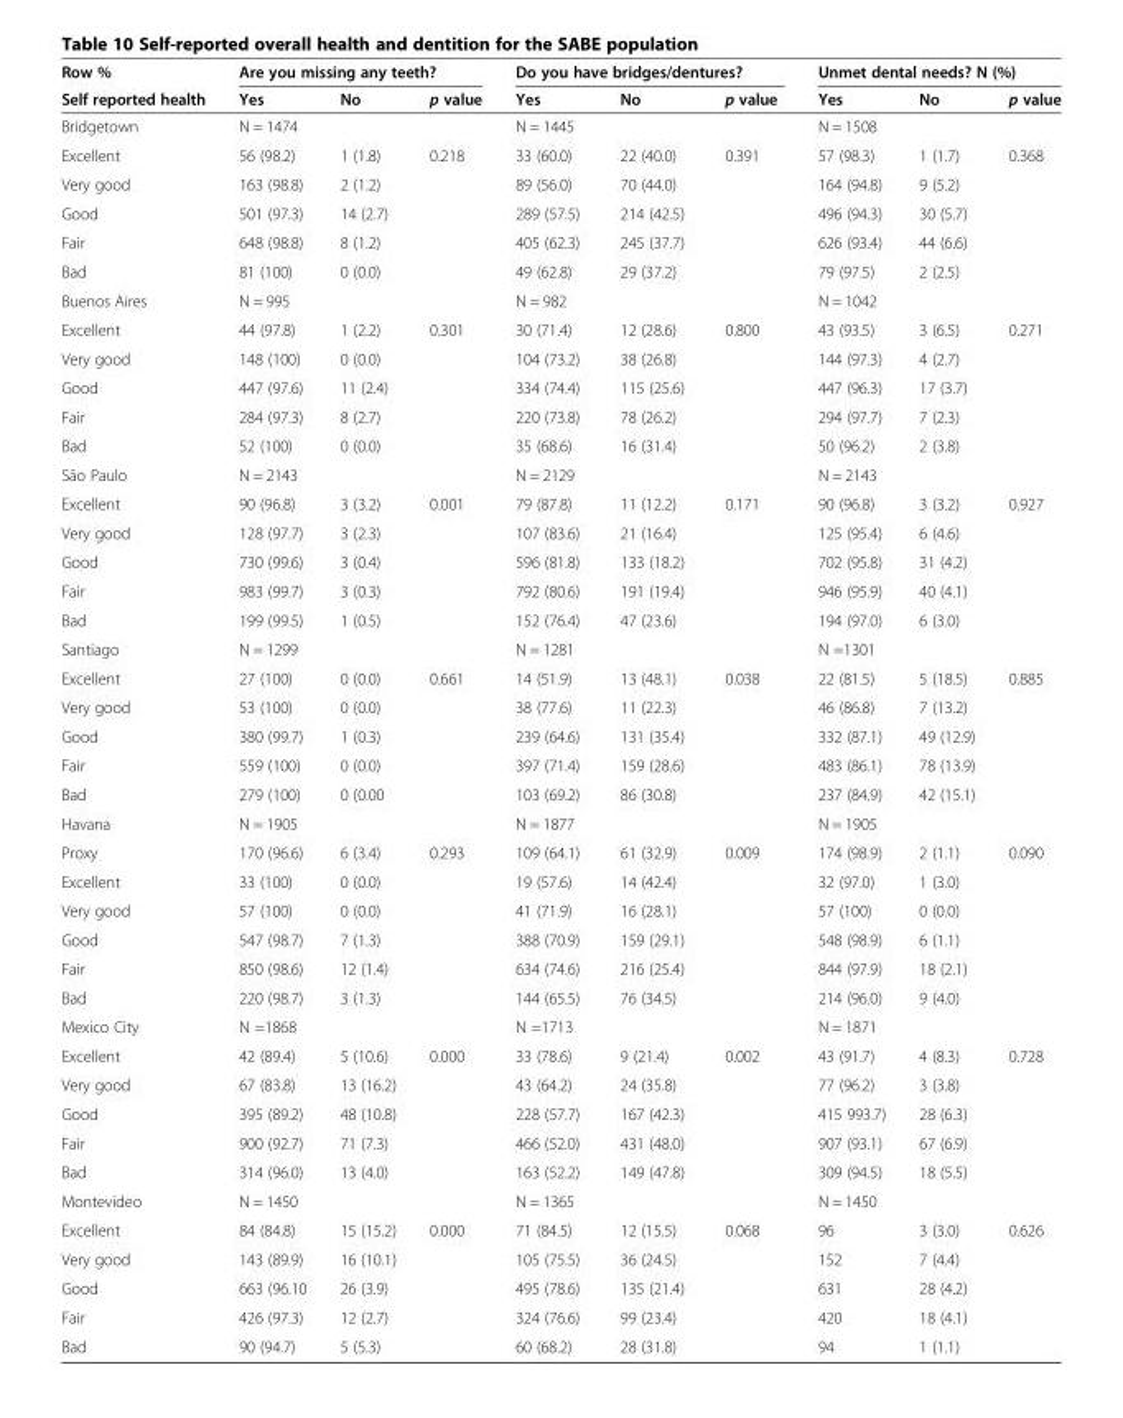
<table><thead><tr><td rowspan="2">Row % Self reported health</td><td colspan="3">Are you missing any teeth?</td><td colspan="3">Do you have bridges/dentures?</td><td colspan="3">Unmet dental needs? N (%)</td></tr><tr><td>Yes</td><td>No</td><td>p value</td><td>Yes</td><td>No</td><td>p value</td><td>Yes</td><td>No</td><td>p value</td></tr></thead><tbody><tr><td>Bridgetown</td><td colspan="2">N = 1474</td><td></td><td colspan="2">N = 1445</td><td></td><td colspan="3">N = 1508</td></tr><tr><td>Excellent</td><td>56 (98.2)</td><td>1 (1.8)</td><td>0.218</td><td>33 (60.0)</td><td>22 (40.0)</td><td>0.391</td><td>57 (98.3)</td><td>1 (1.7)</td><td>0.368</td></tr><tr><td>Very good</td><td>163 (98.8)</td><td>2 (1.2)</td><td></td><td>89 (56.0)</td><td>70 (44.0)</td><td></td><td>164 (94.8)</td><td>9 (5.2)</td><td></td></tr><tr><td>Good</td><td>501 (97.3)</td><td>14 (2.7)</td><td></td><td>289 (57.5)</td><td>214 (42.5)</td><td></td><td>496 (94.3)</td><td>30 (5.7)</td><td></td></tr><tr><td>Fair</td><td>648 (98.8)</td><td>8 (1.2)</td><td></td><td>405 (62.3)</td><td>245 (37.7)</td><td></td><td>626 (93.4)</td><td>44 (6.6)</td><td></td></tr><tr><td>Bad</td><td>81 (100)</td><td>0 (0.0)</td><td></td><td>49 (62.8)</td><td>29 (37.2)</td><td></td><td>79 (97.5)</td><td>2 (2.5)</td><td></td></tr><tr><td>Buenos Aires</td><td colspan="2">N = 995</td><td></td><td colspan="2">N = 982</td><td></td><td colspan="3">N = 1042</td></tr><tr><td>Excellent</td><td>44 (97.8)</td><td>1 (2.2)</td><td>0.301</td><td>30 (71.4)</td><td>12 (28.6)</td><td>0.800</td><td>43 (93.5)</td><td>3 (6.5)</td><td>0.271</td></tr><tr><td>Very good</td><td>148 (100)</td><td>0 (0.0)</td><td></td><td>104 (73.2)</td><td>38 (26.8)</td><td></td><td>144 (97.3)</td><td>4 (2.7)</td><td></td></tr><tr><td>Good</td><td>447 (97.6)</td><td>11 (2.4)</td><td></td><td>334 (74.4)</td><td>115 (25.6)</td><td></td><td>447 (96.3)</td><td>17 (3.7)</td><td></td></tr><tr><td>Fair</td><td>284 (97.3)</td><td>8 (2.7)</td><td></td><td>220 (73.8)</td><td>78 (26.2)</td><td></td><td>294 (97.7)</td><td>7 (2.3)</td><td></td></tr><tr><td>Bad</td><td>52 (100)</td><td>0 (0.0)</td><td></td><td>35 (68.6)</td><td>16 (31.4)</td><td></td><td>50 (96.2)</td><td>2 (3.8)</td><td></td></tr><tr><td>São Paulo</td><td colspan="2">N = 2143</td><td></td><td colspan="2">N = 2129</td><td></td><td colspan="3">N = 2143</td></tr><tr><td>Excellent</td><td>90 (96.8)</td><td>3 (3.2)</td><td>0.001</td><td>79 (87.8)</td><td>11 (12.2)</td><td>0.171</td><td>90 (96.8)</td><td>3 (3.2)</td><td>0.927</td></tr><tr><td>Very good</td><td>128 (97.7)</td><td>3 (2.3)</td><td></td><td>107 (83.6)</td><td>21 (16.4)</td><td></td><td>125 (95.4)</td><td>6 (4.6)</td><td></td></tr><tr><td>Good</td><td>730 (99.6)</td><td>3 (0.4)</td><td></td><td>596 (81.8)</td><td>133 (18.2)</td><td></td><td>702 (95.8)</td><td>31 (4.2)</td><td></td></tr><tr><td>Fair</td><td>983 (99.7)</td><td>3 (0.3)</td><td></td><td>792 (80.6)</td><td>191 (19.4)</td><td></td><td>946 (95.9)</td><td>40 (4.1)</td><td></td></tr><tr><td>Bad</td><td>199 (99.5)</td><td>1 (0.5)</td><td></td><td>152 (76.4)</td><td>47 (23.6)</td><td></td><td>194 (97.0)</td><td>6 (3.0)</td><td></td></tr><tr><td>Santiago</td><td colspan="2">N = 1299</td><td></td><td colspan="2">N = 1281</td><td></td><td colspan="3">N =1301</td></tr><tr><td>Excellent</td><td>27 (100)</td><td>0 (0.0)</td><td>0.661</td><td>14 (51.9)</td><td>13 (48.1)</td><td>0.038</td><td>22 (81.5)</td><td>5 (18.5)</td><td>0.885</td></tr><tr><td>Very good</td><td>53 (100)</td><td>0 (0.0)</td><td></td><td>38 (77.6)</td><td>11 (22.3)</td><td></td><td>46 (86.8)</td><td>7 (13.2)</td><td></td></tr><tr><td>Good</td><td>380 (99.7)</td><td>1 (0.3)</td><td></td><td>239 (64.6)</td><td>131 (35.4)</td><td></td><td>332 (87.1)</td><td>49 (12.9)</td><td></td></tr><tr><td>Fair</td><td>559 (100)</td><td>0 (0.0)</td><td></td><td>397 (71.4)</td><td>159 (28.6)</td><td></td><td>483 (86.1)</td><td>78 (13.9)</td><td></td></tr><tr><td>Bad</td><td>279 (100)</td><td>0 (0.00</td><td></td><td>103 (69.2)</td><td>86 (30.8)</td><td></td><td>237 (84.9)</td><td>42 (15.1)</td><td></td></tr><tr><td>Havana</td><td colspan="2">N = 1905</td><td></td><td colspan="2">N = 1877</td><td></td><td colspan="3">N = 1905</td></tr><tr><td>Proxy</td><td>170 (96.6)</td><td>6 (3.4)</td><td>0.293</td><td>109 (64.1)</td><td>61 (32.9)</td><td>0.009</td><td>174 (98.9)</td><td>2 (1.1)</td><td>0.090</td></tr><tr><td>Excellent</td><td>33 (100)</td><td>0 (0.0)</td><td></td><td>19 (57.6)</td><td>14 (42.4)</td><td></td><td>32 (97.0)</td><td>1 (3.0)</td><td></td></tr><tr><td>Very good</td><td>57 (100)</td><td>0 (0.0)</td><td></td><td>41 (71.9)</td><td>16 (28.1)</td><td></td><td>57 (100)</td><td>0 (0.0)</td><td></td></tr><tr><td>Good</td><td>547 (98.7)</td><td>7 (1.3)</td><td></td><td>388 (70.9)</td><td>159 (29.1)</td><td></td><td>548 (98.9)</td><td>6 (1.1)</td><td></td></tr><tr><td>Fair</td><td>850 (98.6)</td><td>12 (1.4)</td><td></td><td>634 (74.6)</td><td>216 (25.4)</td><td></td><td>844 (97.9)</td><td>18 (2.1)</td><td></td></tr><tr><td>Bad</td><td>220 (98.7)</td><td>3 (1.3)</td><td></td><td>144 (65.5)</td><td>76 (34.5)</td><td></td><td>214 (96.0)</td><td>9 (4.0)</td><td></td></tr><tr><td>Mexico City</td><td colspan="2">N =1868</td><td></td><td colspan="2">N =1713</td><td></td><td colspan="3">N = 1871</td></tr><tr><td>Excellent</td><td>42 (89.4)</td><td>5 (10.6)</td><td>0.000</td><td>33 (78.6)</td><td>9 (21.4)</td><td>0.002</td><td>43 (91.7)</td><td>4 (8.3)</td><td>0.728</td></tr><tr><td>Very good</td><td>67 (83.8)</td><td>13 (16.2)</td><td></td><td>43 (64.2)</td><td>24 (35.8)</td><td></td><td>77 (96.2)</td><td>3 (3.8)</td><td></td></tr><tr><td>Good</td><td>395 (89.2)</td><td>48 (10.8)</td><td></td><td>228 (57.7)</td><td>167 (42.3)</td><td></td><td>415 993.7)</td><td>28 (6.3)</td><td></td></tr><tr><td>Fair</td><td>900 (92.7)</td><td>71 (7.3)</td><td></td><td>466 (52.0)</td><td>431 (48.0)</td><td></td><td>907 (93.1)</td><td>67 (6.9)</td><td></td></tr><tr><td>Bad</td><td>314 (96.0)</td><td>13 (4.0)</td><td></td><td>163 (52.2)</td><td>149 (47.8)</td><td></td><td>309 (94.5)</td><td>18 (5.5)</td><td></td></tr><tr><td>Montevideo</td><td colspan="2">N = 1450</td><td></td><td colspan="2">N = 1365</td><td></td><td colspan="3">N = 1450</td></tr><tr><td>Excellent</td><td>84 (84.8)</td><td>15 (15.2)</td><td>0.000</td><td>71 (84.5)</td><td>12 (15.5)</td><td>0.068</td><td>96</td><td>3 (3.0)</td><td>0.626</td></tr><tr><td>Very good</td><td>143 (89.9)</td><td>16 (10.1)</td><td></td><td>105 (75.5)</td><td>36 (24.5)</td><td></td><td>152</td><td>7 (4.4)</td><td></td></tr><tr><td>Good</td><td>663 (96.10</td><td>26 (3.9)</td><td></td><td>495 (78.6)</td><td>135 (21.4)</td><td></td><td>631</td><td>28 (4.2)</td><td></td></tr><tr><td>Fair</td><td>426 (97.3)</td><td>12 (2.7)</td><td></td><td>324 (76.6)</td><td>99 (23.4)</td><td></td><td>420</td><td>18 (4.1)</td><td></td></tr><tr><td>Bad</td><td>90 (94.7)</td><td>5 (5.3)</td><td></td><td>60 (68.2)</td><td>28 (31.8)</td><td></td><td>94</td><td>1 (1.1)</td><td></td></tr></tbody></table>